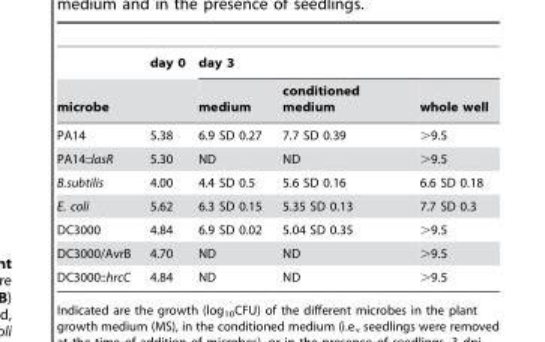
<table><thead><tr><td rowspan="2">microbe</td><td rowspan="2">day 0</td><td colspan="3">day 3</td></tr><tr><td>medium</td><td>conditioned medium</td><td>whole well</td></tr></thead><tbody><tr><td>PA14</td><td>5.38</td><td>6.9 SD 0.27</td><td>7.7 SD 0.39</td><td>&gt;9.5</td></tr><tr><td>PA14::lasR</td><td>5.30</td><td>ND</td><td>ND</td><td>&gt;9.5</td></tr><tr><td>B.subtilis</td><td>4.00</td><td>4.4 SD 0.5</td><td>5.6 SD 0.16</td><td>6.6 SD 0.18</td></tr><tr><td>E. coli</td><td>5.62</td><td>6.3 SD 0.15</td><td>5.35 SD 0.13</td><td>7.7 SD 0.3</td></tr><tr><td>DC3000</td><td>4.84</td><td>6.9 SD 0.02</td><td>5.04 SD 0.35</td><td>&gt;9.5</td></tr><tr><td>DC3000/AvrB</td><td>4.70</td><td>ND</td><td>ND</td><td>&gt;9.5</td></tr><tr><td>DC3000::hrcC</td><td>4.84</td><td>ND</td><td>ND</td><td>&gt;9.5</td></tr></tbody></table>